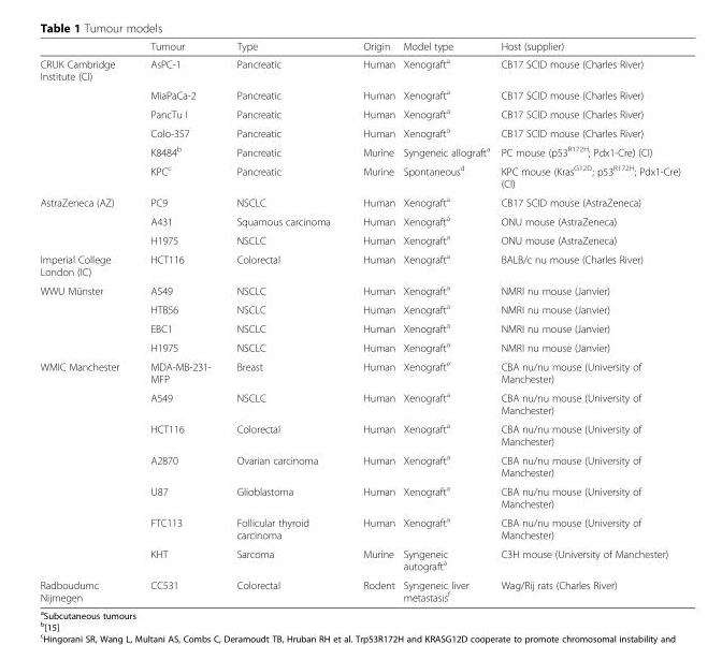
<table><thead><tr><td></td><td>Tumour</td><td>Type</td><td>Origin</td><td>Model type</td><td>Host (supplier)</td></tr></thead><tbody><tr><td rowspan="6">CRUK Cambridge Institute (CI)</td><td>AsPC-1</td><td>Pancreatic</td><td>Human</td><td>Xenograft<sup>a</sup></td><td>CB17 SCID mouse (Charles River)</td></tr><tr><td>MiaPaCa-2</td><td>Pancreatic</td><td>Human</td><td>Xenograft<sup>a</sup></td><td>CB17 SCID mouse (Charles River)</td></tr><tr><td>PancTu I</td><td>Pancreatic</td><td>Human</td><td>Xenograft<sup>a</sup></td><td>CB17 SCID mouse (Charles River)</td></tr><tr><td>Colo-357</td><td>Pancreatic</td><td>Human</td><td>Xenograft<sup>a</sup></td><td>CB17 SCID mouse (Charles River)</td></tr><tr><td>K8484<sup>b</sup></td><td>Pancreatic</td><td>Murine</td><td>Syngeneic allograft<sup>a</sup></td><td>PC mouse (p53<sup>R172H</sup>; Pdx1-Cre) (CI)</td></tr><tr><td>KPC<sup>c</sup></td><td>Pancreatic</td><td>Murine</td><td>Spontaneous<sup>d</sup></td><td>KPC mouse (Kras<sup>G12D</sup>; p53<sup>R172H</sup>; Pdx1-Cre) (CI)</td></tr><tr><td rowspan="3">AstraZeneca (AZ)</td><td>PC9</td><td>NSCLC</td><td>Human</td><td>Xenograft<sup>a</sup></td><td>CB17 SCID mouse (AstraZeneca)</td></tr><tr><td>A431</td><td>Squamous carcinoma</td><td>Human</td><td>Xenograft<sup>a</sup></td><td>ONU mouse (AstraZeneca)</td></tr><tr><td>H1975</td><td>NSCLC</td><td>Human</td><td>Xenograft<sup>a</sup></td><td>ONU mouse (AstraZeneca)</td></tr><tr><td>Imperial College London (IC)</td><td>HCT116</td><td>Colorectal</td><td>Human</td><td>Xenograft<sup>a</sup></td><td>BALB/c nu mouse (Charles River)</td></tr><tr><td rowspan="4">WWU Münster</td><td>A549</td><td>NSCLC</td><td>Human</td><td>Xenograft<sup>a</sup></td><td>NMRI nu mouse (Janvier)</td></tr><tr><td>HTB56</td><td>NSCLC</td><td>Human</td><td>Xenograft<sup>a</sup></td><td>NMRI nu mouse (Janvier)</td></tr><tr><td>EBC1</td><td>NSCLC</td><td>Human</td><td>Xenograft<sup>a</sup></td><td>NMRI nu mouse (Janvier)</td></tr><tr><td>H1975</td><td>NSCLC</td><td>Human</td><td>Xenograft<sup>a</sup></td><td>NMRI nu mouse (Janvier)</td></tr><tr><td rowspan="7">WMIC Manchester</td><td>MDA-MB-231- MFP</td><td>Breast</td><td>Human</td><td>Xenograft<sup>e</sup></td><td>CBA nu/nu mouse (University of Manchester)</td></tr><tr><td>A549</td><td>NSCLC</td><td>Human</td><td>Xenograft<sup>a</sup></td><td>CBA nu/nu mouse (University of Manchester)</td></tr><tr><td>HCT116</td><td>Colorectal</td><td>Human</td><td>Xenograft<sup>a</sup></td><td>CBA nu/nu mouse (University of Manchester)</td></tr><tr><td>A2870</td><td>Ovarian carcinoma</td><td>Human</td><td>Xenograft<sup>a</sup></td><td>CBA nu/nu mouse (University of Manchester)</td></tr><tr><td>U87</td><td>Glioblastoma</td><td>Human</td><td>Xenograft<sup>a</sup></td><td>CBA nu/nu mouse (University of Manchester)</td></tr><tr><td>FTC113</td><td>Follicular thyroid carcinoma</td><td>Human</td><td>Xenograft<sup>a</sup></td><td>CBA nu/nu mouse (University of Manchester)</td></tr><tr><td>KHT</td><td>Sarcoma</td><td>Murine</td><td>Syngeneic autograft<sup>a</sup></td><td>C3H mouse (University of Manchester)</td></tr><tr><td>Radboudumc Nijmegen</td><td>CC531</td><td>Colorectal</td><td>Rodent</td><td>Syngeneic liver metastasis<sup>f</sup></td><td>Wag/Rij rats (Charles River)</td></tr></tbody></table>